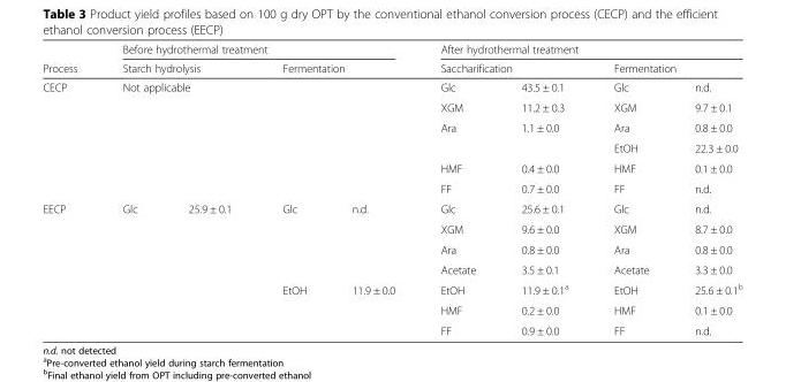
<table><thead><tr><td rowspan="2">Process</td><td colspan="4">Before hydrothermal treatment</td><td colspan="4">After hydrothermal treatment</td></tr><tr><td colspan="2">Starch hydrolysis</td><td colspan="2">Fermentation</td><td colspan="2">Saccharification</td><td colspan="2">Fermentation</td></tr></thead><tbody><tr><td rowspan="6">CECP</td><td rowspan="6" colspan="4">Not applicable</td><td>Glc</td><td>43.5 ± 0.1</td><td>Glc</td><td>n.d.</td></tr><tr><td>XGM</td><td>11.2 ± 0.3</td><td>XGM</td><td>9.7 ± 0.1</td></tr><tr><td>Ara</td><td>1.1 ± 0.0</td><td>Ara</td><td>0.8 ± 0.0</td></tr><tr><td></td><td></td><td>EtOH</td><td>22.3 ± 0.0</td></tr><tr><td>HMF</td><td>0.4 ± 0.0</td><td>HMF</td><td>0.1 ± 0.0</td></tr><tr><td>FF</td><td>0.7 ± 0.0</td><td>FF</td><td>n.d.</td></tr><tr><td rowspan="7">EECP</td><td>Glc</td><td>25.9 ± 0.1</td><td>Glc</td><td>n.d.</td><td>Glc</td><td>25.6 ± 0.1</td><td>Glc</td><td>n.d.</td></tr><tr><td></td><td></td><td></td><td></td><td>XGM</td><td>9.6 ± 0.0</td><td>XGM</td><td>8.7 ± 0.0</td></tr><tr><td></td><td></td><td></td><td></td><td>Ara</td><td>0.8 ± 0.0</td><td>Ara</td><td>0.8 ± 0.0</td></tr><tr><td></td><td></td><td></td><td></td><td>Acetate</td><td>3.5 ± 0.1</td><td>Acetate</td><td>3.3 ± 0.0</td></tr><tr><td></td><td></td><td>EtOH</td><td>11.9 ± 0.0</td><td>EtOH</td><td>11.9 ± 0.1<sup>a</sup></td><td>EtOH</td><td>25.6 ± 0.1<sup>b</sup></td></tr><tr><td></td><td></td><td></td><td></td><td>HMF</td><td>0.2 ± 0.0</td><td>HMF</td><td>0.1 ± 0.0</td></tr><tr><td></td><td></td><td></td><td></td><td>FF</td><td>0.9 ± 0.0</td><td>FF</td><td>n.d.</td></tr></tbody></table>